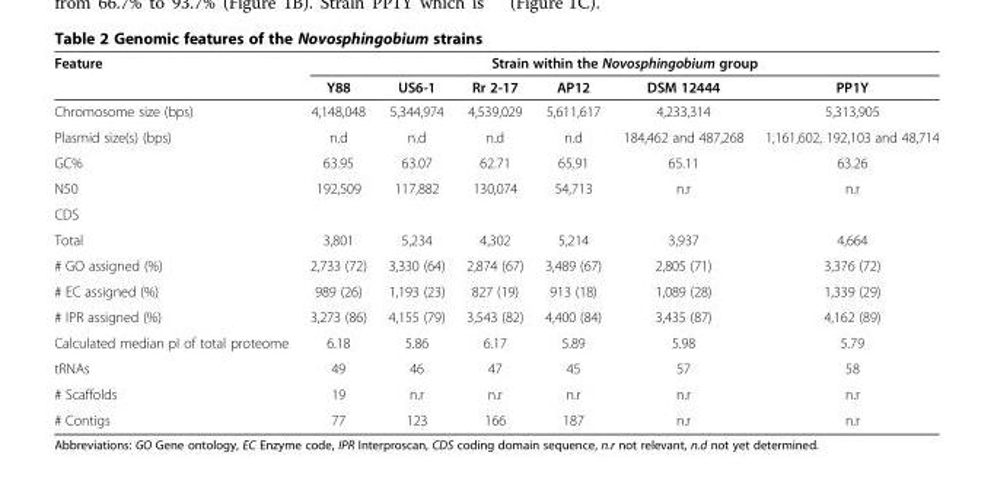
<table><thead><tr><td rowspan="2">Feature</td><td colspan="6">Strain within the Novosphingobium group</td></tr><tr><td>Y88</td><td>US6-1</td><td>Rr 2-17</td><td>AP12</td><td>DSM 12444</td><td>PP1Y</td></tr></thead><tbody><tr><td>Chromosome size (bps)</td><td>4,148,048</td><td>5,344,974</td><td>4,539,029</td><td>5,611,617</td><td>4,233,314</td><td>5,313,905</td></tr><tr><td>Plasmid size(s) (bps)</td><td>n.d</td><td>n.d</td><td>n.d</td><td>n.d</td><td>184,462 and 487,268</td><td>1,161,602, 192,103 and 48,714</td></tr><tr><td>GC%</td><td>63.95</td><td>63.07</td><td>62.71</td><td>65.91</td><td>65.11</td><td>63.26</td></tr><tr><td>N50</td><td>192,509</td><td>117,882</td><td>130,074</td><td>54,713</td><td>n.r</td><td>n.r</td></tr><tr><td colspan="7">CDS</td></tr><tr><td>Total</td><td>3,801</td><td>5,234</td><td>4,302</td><td>5,214</td><td>3,937</td><td>4,664</td></tr><tr><td># GO assigned (%)</td><td>2,733 (72)</td><td>3,330 (64)</td><td>2,874 (67)</td><td>3,489 (67)</td><td>2,805 (71)</td><td>3,376 (72)</td></tr><tr><td># EC assigned (%)</td><td>989 (26)</td><td>1,193 (23)</td><td>827 (19)</td><td>913 (18)</td><td>1,089 (28)</td><td>1,339 (29)</td></tr><tr><td># IPR assigned (%)</td><td>3,273 (86)</td><td>4,155 (79)</td><td>3,543 (82)</td><td>4,400 (84)</td><td>3,435 (87)</td><td>4,162 (89)</td></tr><tr><td>Calculated median pI of total proteome</td><td>6.18</td><td>5.86</td><td>6.17</td><td>5.89</td><td>5.98</td><td>5.79</td></tr><tr><td>tRNAs</td><td>49</td><td>46</td><td>47</td><td>45</td><td>57</td><td>58</td></tr><tr><td># Scaffolds</td><td>19</td><td>n.r</td><td>n.r</td><td>n.r</td><td>n.r</td><td>n.r</td></tr><tr><td># Contigs</td><td>77</td><td>123</td><td>166</td><td>187</td><td>n.r</td><td>n.r</td></tr></tbody></table>